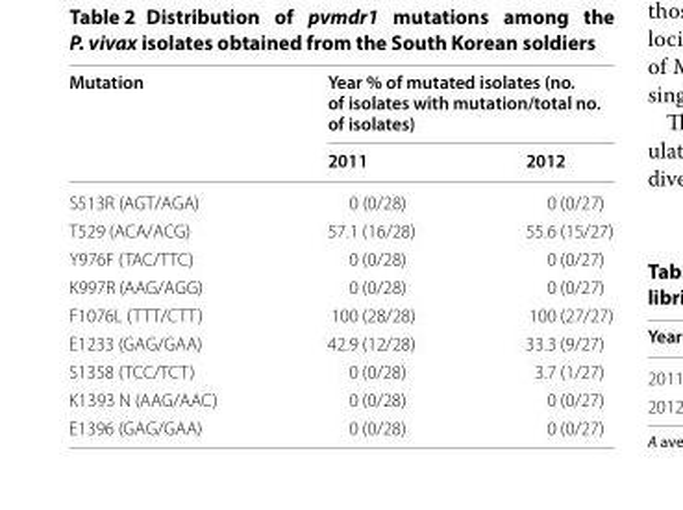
<table><thead><tr><td rowspan="2">Mutation</td><td colspan="2">Year % of mutated isolates (no. of isolates with mutation/total no. of isolates)</td></tr><tr><td>2011</td><td>2012</td></tr></thead><tbody><tr><td>S513R (AGT/AGA)</td><td>0 (0/28)</td><td>0 (0/27)</td></tr><tr><td>T529 (ACA/ACG)</td><td>57.1 (16/28)</td><td>55.6 (15/27)</td></tr><tr><td>Y976F (TAC/TTC)</td><td>0 (0/28)</td><td>0 (0/27)</td></tr><tr><td>K997R (AAG/AGG)</td><td>0 (0/28)</td><td>0 (0/27)</td></tr><tr><td>F1076L (TTT/CTT)</td><td>100 (28/28)</td><td>100 (27/27)</td></tr><tr><td>E1233 (GAG/GAA)</td><td>42.9 (12/28)</td><td>33.3 (9/27)</td></tr><tr><td>S1358 (TCC/TCT)</td><td>0 (0/28)</td><td>3.7 (1/27)</td></tr><tr><td>K1393 N (AAG/AAC)</td><td>0 (0/28)</td><td>0 (0/27)</td></tr><tr><td>E1396 (GAG/GAA)</td><td>0 (0/28)</td><td>0 (0/27)</td></tr></tbody></table>